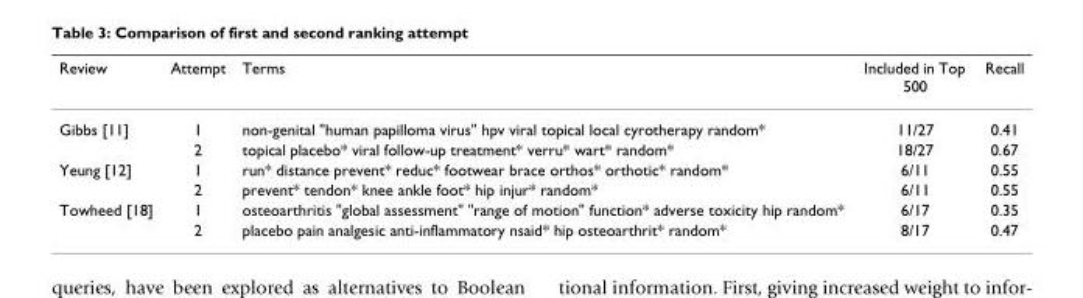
<table><thead><tr><td>Review</td><td>Attempt</td><td>Terms</td><td>Included in Top 500</td><td>Recall</td></tr></thead><tbody><tr><td rowspan="2">Gibbs [11]</td><td>1</td><td>non-genital &quot;human papilloma virus&quot; hpv viral topical local cyrotherapy random*</td><td>11/27</td><td>0.41</td></tr><tr><td>2</td><td>topical placebo* viral follow-up treatment* verru* wart* random*</td><td>18/27</td><td>0.67</td></tr><tr><td rowspan="2">Yeung [12]</td><td>1</td><td>run* distance prevent* reduc* footwear brace orthos* orthotic* random*</td><td>6/11</td><td>0.55</td></tr><tr><td>2</td><td>prevent* tendon* knee ankle foot* hip injur* random*</td><td>6/11</td><td>0.55</td></tr><tr><td rowspan="2">Towheed [18]</td><td>1</td><td>osteoarthritis &quot;global assessment&quot; &quot;range of motion&quot; function* adverse toxicity hip random*</td><td>6/17</td><td>0.35</td></tr><tr><td>2</td><td>placebo pain analgesic anti-inflammatory nsaid* hip osteoarthrit* random*</td><td>8/17</td><td>0.47</td></tr></tbody></table>